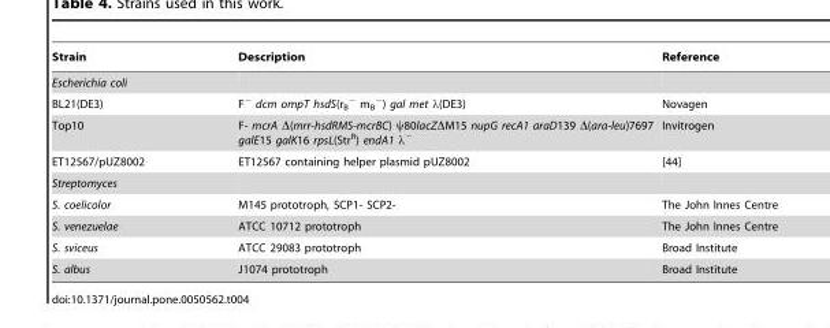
<table><thead><tr><td>Strain</td><td>Description</td><td>Reference</td></tr></thead><tbody><tr><td colspan="3">Escherichia coli</td></tr><tr><td>BL21(DE3)</td><td>F<sup>−</sup> dcm ompT hsdS(r<sub>B</sub> <sup>−</sup> m<sub>B</sub> <sup>−</sup>) gal met λ(DE3)</td><td>Novagen</td></tr><tr><td>Top10</td><td>F- mcrA Δ(mrr-hsdRMS-mcrBC) ψ80lacZΔM15 nupG recA1 araD139 Δ(ara-leu)7697 galE15 galK16 rpsL(Str<sup>R</sup>) endA1 λ<sup>−</sup></td><td>Invitrogen</td></tr><tr><td>ET12567/pUZ8002</td><td>ET12567 containing helper plasmid pUZ8002</td><td>[44]</td></tr><tr><td colspan="3">Streptomyces</td></tr><tr><td>S. coelicolor</td><td>M145 prototroph, SCP1- SCP2-</td><td>The John Innes Centre</td></tr><tr><td>S. venezuelae</td><td>ATCC 10712 prototroph</td><td>The John Innes Centre</td></tr><tr><td>S. sviceus</td><td>ATCC 29083 prototroph</td><td>Broad Institute</td></tr><tr><td>S. albus</td><td>J1074 prototroph</td><td>Broad Institute</td></tr></tbody></table>